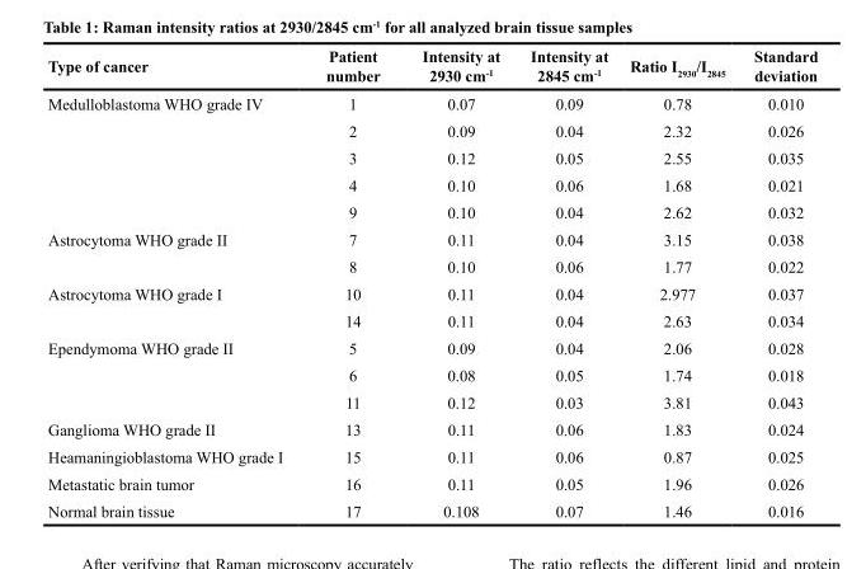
<table><thead><tr><td>Type of cancer</td><td>Patient number</td><td>Intensity at 2930 cm<sup>-1</sup></td><td>Intensity at 2845 cm<sup>-1</sup></td><td>Ratio I<sub>2930</sub>/I<sub>2845</sub></td><td>Standard deviation</td></tr></thead><tbody><tr><td rowspan="5">Medulloblastoma WHO grade IV</td><td>1</td><td>0.07</td><td>0.09</td><td>0.78</td><td>0.010</td></tr><tr><td>2</td><td>0.09</td><td>0.04</td><td>2.32</td><td>0.026</td></tr><tr><td>3</td><td>0.12</td><td>0.05</td><td>2.55</td><td>0.035</td></tr><tr><td>4</td><td>0.10</td><td>0.06</td><td>1.68</td><td>0.021</td></tr><tr><td>9</td><td>0.10</td><td>0.04</td><td>2.62</td><td>0.032</td></tr><tr><td rowspan="2">Astrocytoma WHO grade II</td><td>7</td><td>0.11</td><td>0.04</td><td>3.15</td><td>0.038</td></tr><tr><td>8</td><td>0.10</td><td>0.06</td><td>1.77</td><td>0.022</td></tr><tr><td rowspan="2">Astrocytoma WHO grade I</td><td>10</td><td>0.11</td><td>0.04</td><td>2.977</td><td>0.037</td></tr><tr><td>14</td><td>0.11</td><td>0.04</td><td>2.63</td><td>0.034</td></tr><tr><td rowspan="3">Ependymoma WHO grade II</td><td>5</td><td>0.09</td><td>0.04</td><td>2.06</td><td>0.028</td></tr><tr><td>6</td><td>0.08</td><td>0.05</td><td>1.74</td><td>0.018</td></tr><tr><td>11</td><td>0.12</td><td>0.03</td><td>3.81</td><td>0.043</td></tr><tr><td>Ganglioma WHO grade II</td><td>13</td><td>0.11</td><td>0.06</td><td>1.83</td><td>0.024</td></tr><tr><td>Heamaningioblastoma WHO grade I</td><td>15</td><td>0.11</td><td>0.06</td><td>0.87</td><td>0.025</td></tr><tr><td>Metastatic brain tumor</td><td>16</td><td>0.11</td><td>0.05</td><td>1.96</td><td>0.026</td></tr><tr><td>Normal brain tissue</td><td>17</td><td>0.108</td><td>0.07</td><td>1.46</td><td>0.016</td></tr></tbody></table>